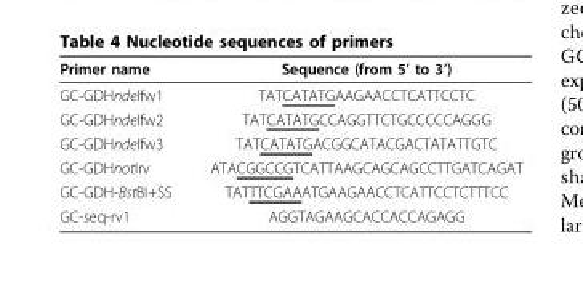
<table><thead><tr><td>Primer name</td><td>Sequence (from 5’ to 3’)</td></tr></thead><tbody><tr><td>GC-GDHndeIfw1</td><td>TATCATATGAAGAACCTCATTCCTC</td></tr><tr><td>GC-GDHndeIfw2</td><td>TATCATATGCCAGGTTCTGCCCCCAGGG</td></tr><tr><td>GC-GDHndeIfw3</td><td>TATCATATGACGGCATACGACTATATTGTC</td></tr><tr><td>GC-GDHnotIrv</td><td>ATACGGCCGTCATTAAGCAGCAGCCTTGATCAGAT</td></tr><tr><td>GC-GDH-BstBI+SS</td><td>TATTTCGAAATGAAGAACCTCATTCCTCTTTCC</td></tr><tr><td>GC-seq-rv1</td><td>AGGTAGAAGCACCACCAGAGG</td></tr></tbody></table>